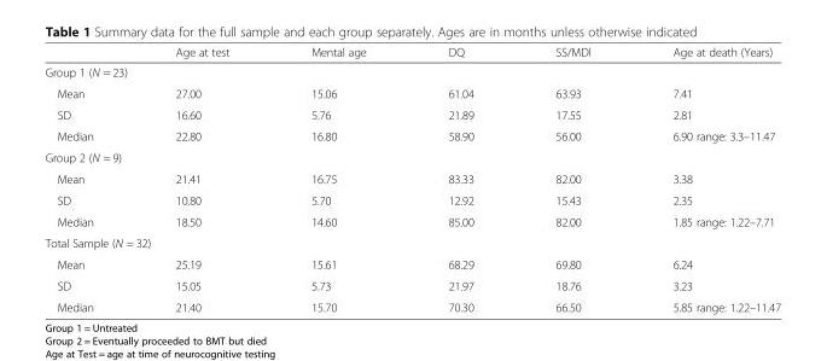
<table><thead><tr><td></td><td>Age at test</td><td>Mental age</td><td>DQ</td><td>SS/MDI</td><td>Age at death (Years)</td></tr></thead><tbody><tr><td colspan="6">Group 1 (N = 23)</td></tr><tr><td>Mean</td><td>27.00</td><td>15.06</td><td>61.04</td><td>63.93</td><td>7.41</td></tr><tr><td>SD</td><td>16.60</td><td>5.76</td><td>21.89</td><td>17.55</td><td>2.81</td></tr><tr><td>Median</td><td>22.80</td><td>16.80</td><td>58.90</td><td>56.00</td><td>6.90 range: 3.3–11.47</td></tr><tr><td colspan="6">Group 2 (N = 9)</td></tr><tr><td>Mean</td><td>21.41</td><td>16.75</td><td>83.33</td><td>82.00</td><td>3.38</td></tr><tr><td>SD</td><td>10.80</td><td>5.70</td><td>12.92</td><td>15.43</td><td>2.35</td></tr><tr><td>Median</td><td>18.50</td><td>14.60</td><td>85.00</td><td>82.00</td><td>1.85 range: 1.22–7.71</td></tr><tr><td colspan="6">Total Sample (N = 32)</td></tr><tr><td>Mean</td><td>25.19</td><td>15.61</td><td>68.29</td><td>69.80</td><td>6.24</td></tr><tr><td>SD</td><td>15.05</td><td>5.73</td><td>21.97</td><td>18.76</td><td>3.23</td></tr><tr><td>Median</td><td>21.40</td><td>15.70</td><td>70.30</td><td>66.50</td><td>5.85 range: 1.22–11.47</td></tr></tbody></table>